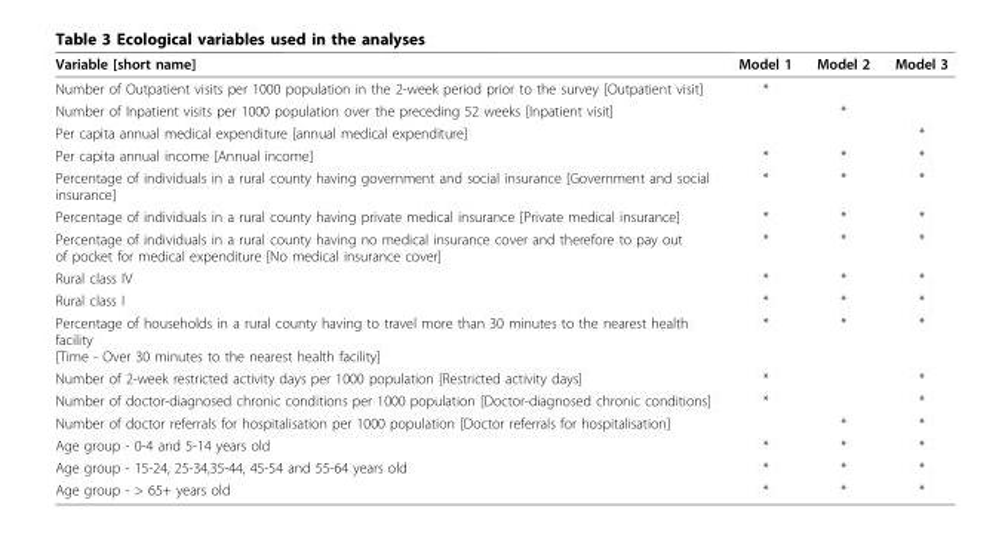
<table><thead><tr><td>Variable [short name]</td><td>Model 1</td><td>Model 2</td><td>Model 3</td></tr></thead><tbody><tr><td>Number of Outpatient visits per 1000 population in the 2-week period prior to the survey [Outpatient visit]</td><td>*</td><td></td><td></td></tr><tr><td>Number of Inpatient visits per 1000 population over the preceding 52 weeks [Inpatient visit]</td><td></td><td>*</td><td></td></tr><tr><td>Per capita annual medical expenditure [annual medical expenditure]</td><td></td><td></td><td>*</td></tr><tr><td>Per capita annual income [Annual income]</td><td>*</td><td>*</td><td>*</td></tr><tr><td>Percentage of individuals in a rural county having government and social insurance [Government and social insurance]</td><td>*</td><td>*</td><td>*</td></tr><tr><td>Percentage of individuals in a rural county having private medical insurance [Private medical insurance]</td><td>*</td><td>*</td><td>*</td></tr><tr><td>Percentage of individuals in a rural county having no medical insurance cover and therefore to pay out of pocket for medical expenditure [No medical insurance cover]</td><td>*</td><td>*</td><td>*</td></tr><tr><td>Rural class IV</td><td>*</td><td>*</td><td>*</td></tr><tr><td>Rural class I</td><td>*</td><td>*</td><td>*</td></tr><tr><td>Percentage of households in a rural county having to travel more than 30 minutes to the nearest health facility [Time - Over 30 minutes to the nearest health facility]</td><td>*</td><td>*</td><td>*</td></tr><tr><td>Number of 2-week restricted activity days per 1000 population [Restricted activity days]</td><td>*</td><td></td><td>*</td></tr><tr><td>Number of doctor-diagnosed chronic conditions per 1000 population [Doctor-diagnosed chronic conditions]</td><td>*</td><td></td><td>*</td></tr><tr><td>Number of doctor referrals for hospitalisation per 1000 population [Doctor referrals for hospitalisation]</td><td></td><td>*</td><td>*</td></tr><tr><td>Age group - 0-4 and 5-14 years old</td><td>*</td><td>*</td><td>*</td></tr><tr><td>Age group - 15-24, 25-34,35-44, 45-54 and 55-64 years old</td><td>*</td><td>*</td><td>*</td></tr><tr><td>Age group - &gt; 65+ years old</td><td>*</td><td>*</td><td>*</td></tr></tbody></table>